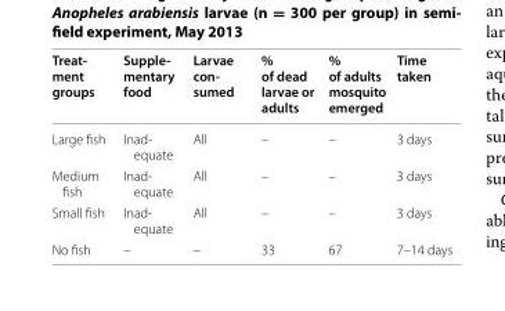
<table><thead><tr><td>Treat‑ ment groups</td><td>Supple‑ mentary food</td><td>Larvae con‑ sumed</td><td>% of dead larvae or adults</td><td>% of adults mosquito emerged</td><td>Time taken</td></tr></thead><tbody><tr><td>Large fish</td><td>Inad- equate</td><td>All</td><td>–</td><td>–</td><td>3 days</td></tr><tr><td>Medium fish</td><td>Inad- equate</td><td>All</td><td>–</td><td>–</td><td>3 days</td></tr><tr><td>Small fish</td><td>Inad- equate</td><td>All</td><td>–</td><td>–</td><td>3 days</td></tr><tr><td>No fish</td><td>–</td><td>–</td><td>33</td><td>67</td><td>7–14 days</td></tr></tbody></table>